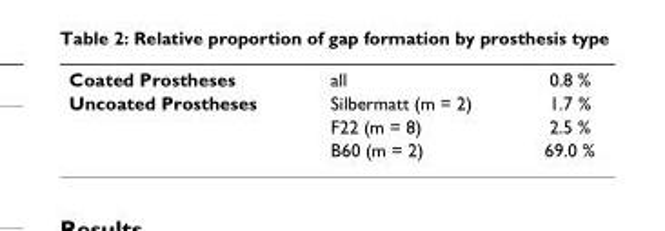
<table><tbody><tr><td>Coated Prostheses</td><td>all</td><td>0.8 %</td></tr><tr><td rowspan="3">Uncoated Prostheses</td><td>Silbermatt (m = 2)</td><td>1.7 %</td></tr><tr><td>F22 (m = 8)</td><td>2.5 %</td></tr><tr><td>B60 (m = 2)</td><td>69.0 %</td></tr></tbody></table>